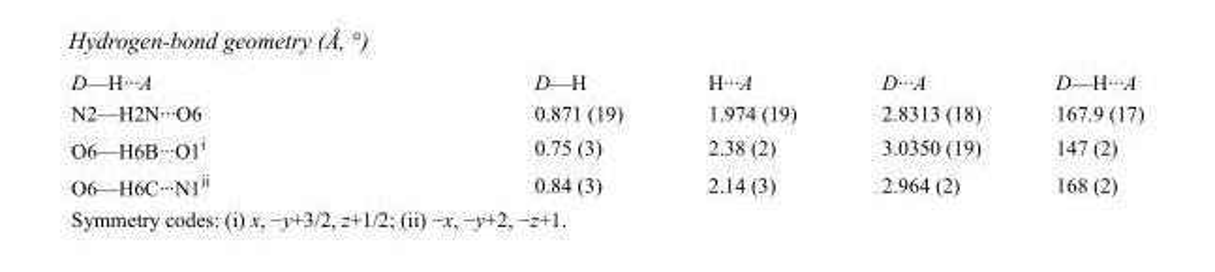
<table><tbody><tr><td>D—H···A</td><td>D—H</td><td>H···A</td><td>D···A</td><td>D—H···A</td></tr><tr><td>N2—H2N···O6</td><td>0.871 (19)</td><td>1.974 (19)</td><td>2.8313 (18)</td><td>167.9 (17)</td></tr><tr><td>O6—H6B···O1<sup>i</sup></td><td>0.75 (3)</td><td>2.38 (2)</td><td>3.0350 (19)</td><td>147 (2)</td></tr><tr><td>O6—H6C···N1<sup>ii</sup></td><td>0.84 (3)</td><td>2.14 (3)</td><td>2.964 (2)</td><td>168 (2)</td></tr></tbody></table>